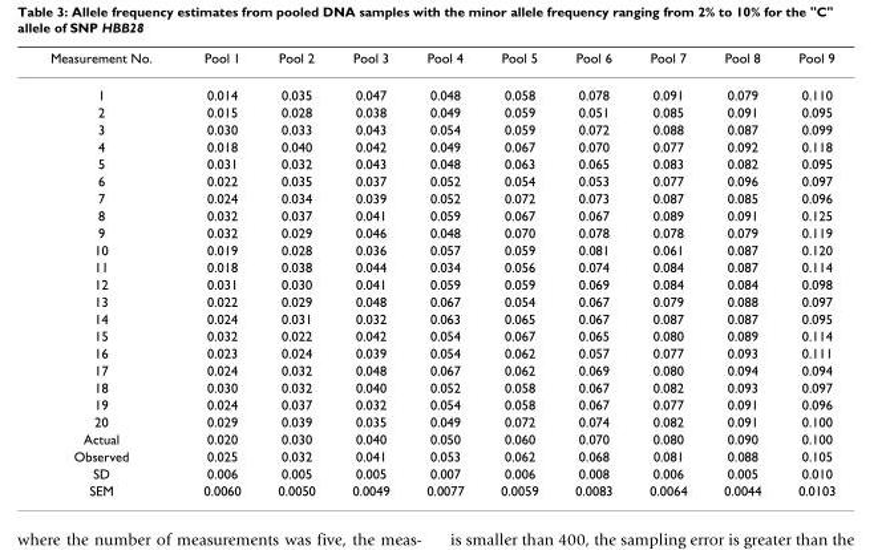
<table><thead><tr><td>Measurement No.</td><td>Pool 1</td><td>Pool 2</td><td>Pool 3</td><td>Pool 4</td><td>Pool 5</td><td>Pool 6</td><td>Pool 7</td><td>Pool 8</td><td>Pool 9</td></tr></thead><tbody><tr><td>1</td><td>0.014</td><td>0.035</td><td>0.047</td><td>0.048</td><td>0.058</td><td>0.078</td><td>0.091</td><td>0.079</td><td>0.110</td></tr><tr><td>2</td><td>0.015</td><td>0.028</td><td>0.038</td><td>0.049</td><td>0.059</td><td>0.051</td><td>0.085</td><td>0.091</td><td>0.095</td></tr><tr><td>3</td><td>0.030</td><td>0.033</td><td>0.043</td><td>0.054</td><td>0.059</td><td>0.072</td><td>0.088</td><td>0.087</td><td>0.099</td></tr><tr><td>4</td><td>0.018</td><td>0.040</td><td>0.042</td><td>0.049</td><td>0.067</td><td>0.070</td><td>0.077</td><td>0.092</td><td>0.118</td></tr><tr><td>5</td><td>0.031</td><td>0.032</td><td>0.043</td><td>0.048</td><td>0.063</td><td>0.065</td><td>0.083</td><td>0.082</td><td>0.095</td></tr><tr><td>6</td><td>0.022</td><td>0.035</td><td>0.037</td><td>0.052</td><td>0.054</td><td>0.053</td><td>0.077</td><td>0.096</td><td>0.097</td></tr><tr><td>7</td><td>0.024</td><td>0.034</td><td>0.039</td><td>0.052</td><td>0.072</td><td>0.073</td><td>0.087</td><td>0.085</td><td>0.096</td></tr><tr><td>8</td><td>0.032</td><td>0.037</td><td>0.041</td><td>0.059</td><td>0.067</td><td>0.067</td><td>0.089</td><td>0.091</td><td>0.125</td></tr><tr><td>9</td><td>0.032</td><td>0.029</td><td>0.046</td><td>0.048</td><td>0.070</td><td>0.078</td><td>0.078</td><td>0.079</td><td>0.119</td></tr><tr><td>10</td><td>0.019</td><td>0.028</td><td>0.036</td><td>0.057</td><td>0.059</td><td>0.081</td><td>0.061</td><td>0.087</td><td>0.120</td></tr><tr><td>11</td><td>0.018</td><td>0.038</td><td>0.044</td><td>0.034</td><td>0.056</td><td>0.074</td><td>0.084</td><td>0.087</td><td>0.114</td></tr><tr><td>12</td><td>0.031</td><td>0.030</td><td>0.041</td><td>0.059</td><td>0.059</td><td>0.069</td><td>0.084</td><td>0.084</td><td>0.098</td></tr><tr><td>13</td><td>0.022</td><td>0.029</td><td>0.048</td><td>0.067</td><td>0.054</td><td>0.067</td><td>0.079</td><td>0.088</td><td>0.097</td></tr><tr><td>14</td><td>0.024</td><td>0.031</td><td>0.032</td><td>0.063</td><td>0.065</td><td>0.067</td><td>0.087</td><td>0.087</td><td>0.095</td></tr><tr><td>15</td><td>0.032</td><td>0.022</td><td>0.042</td><td>0.054</td><td>0.067</td><td>0.065</td><td>0.080</td><td>0.089</td><td>0.114</td></tr><tr><td>16</td><td>0.023</td><td>0.024</td><td>0.039</td><td>0.054</td><td>0.062</td><td>0.057</td><td>0.077</td><td>0.093</td><td>0.111</td></tr><tr><td>17</td><td>0.024</td><td>0.032</td><td>0.048</td><td>0.067</td><td>0.062</td><td>0.069</td><td>0.080</td><td>0.094</td><td>0.094</td></tr><tr><td>18</td><td>0.030</td><td>0.032</td><td>0.040</td><td>0.052</td><td>0.058</td><td>0.067</td><td>0.082</td><td>0.093</td><td>0.097</td></tr><tr><td>19</td><td>0.024</td><td>0.037</td><td>0.032</td><td>0.054</td><td>0.058</td><td>0.067</td><td>0.077</td><td>0.091</td><td>0.096</td></tr><tr><td>20</td><td>0.029</td><td>0.039</td><td>0.035</td><td>0.049</td><td>0.072</td><td>0.074</td><td>0.082</td><td>0.091</td><td>0.100</td></tr><tr><td>Actual</td><td>0.020</td><td>0.030</td><td>0.040</td><td>0.050</td><td>0.060</td><td>0.070</td><td>0.080</td><td>0.090</td><td>0.100</td></tr><tr><td>Observed</td><td>0.025</td><td>0.032</td><td>0.041</td><td>0.053</td><td>0.062</td><td>0.068</td><td>0.081</td><td>0.088</td><td>0.105</td></tr><tr><td>SD</td><td>0.006</td><td>0.005</td><td>0.005</td><td>0.007</td><td>0.006</td><td>0.008</td><td>0.006</td><td>0.005</td><td>0.010</td></tr><tr><td>SEM</td><td>0.0060</td><td>0.0050</td><td>0.0049</td><td>0.0077</td><td>0.0059</td><td>0.0083</td><td>0.0064</td><td>0.0044</td><td>0.0103</td></tr></tbody></table>